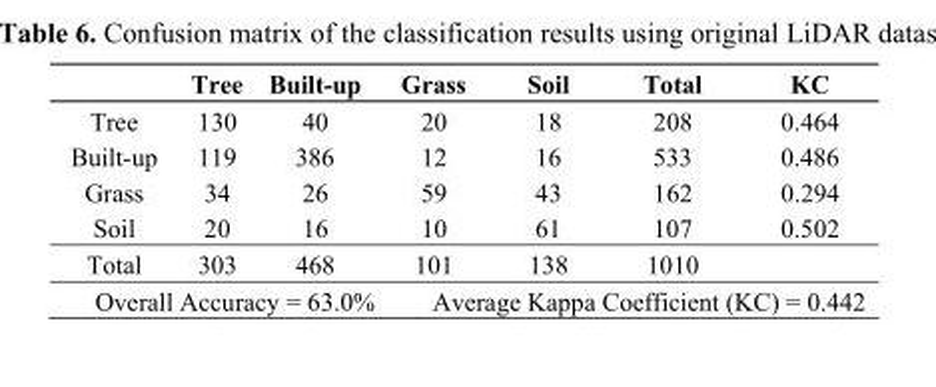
<table><thead><tr><td></td><td>Tree</td><td>Built-up</td><td>Grass</td><td>Soil</td><td>Total</td><td>KC</td></tr></thead><tbody><tr><td>Tree</td><td>130</td><td>40</td><td>20</td><td>18</td><td>208</td><td>0.464</td></tr><tr><td>Built-up</td><td>119</td><td>386</td><td>12</td><td>16</td><td>533</td><td>0.486</td></tr><tr><td>Grass</td><td>34</td><td>26</td><td>59</td><td>43</td><td>162</td><td>0.294</td></tr><tr><td>Soil</td><td>20</td><td>16</td><td>10</td><td>61</td><td>107</td><td>0.502</td></tr><tr><td>Total</td><td>303</td><td>468</td><td>101</td><td>138</td><td>1010</td><td></td></tr><tr><td colspan="3">Overall Accuracy = 63.0%</td><td colspan="4">Average Kappa Coefficient (KC) = 0.442</td></tr></tbody></table>